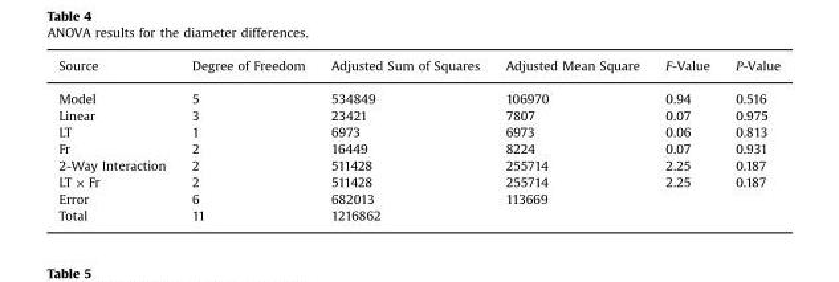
<table><thead><tr><td>Source</td><td>Degree of Freedom</td><td>Adjusted Sum of Squares</td><td>Adjusted Mean Square</td><td>F-Value</td><td>P-Value</td></tr></thead><tbody><tr><td>Model</td><td>5</td><td>534849</td><td>106970</td><td>0.94</td><td>0.516</td></tr><tr><td>Linear</td><td>3</td><td>23421</td><td>7807</td><td>0.07</td><td>0.975</td></tr><tr><td>LT</td><td>1</td><td>6973</td><td>6973</td><td>0.06</td><td>0.813</td></tr><tr><td>Fr</td><td>2</td><td>16449</td><td>8224</td><td>0.07</td><td>0.931</td></tr><tr><td>2-Way Interaction</td><td>2</td><td>511428</td><td>255714</td><td>2.25</td><td>0.187</td></tr><tr><td>LT × Fr</td><td>2</td><td>511428</td><td>255714</td><td>2.25</td><td>0.187</td></tr><tr><td>Error</td><td>6</td><td>682013</td><td>113669</td><td></td><td></td></tr><tr><td>Total</td><td>11</td><td>1216862</td><td></td><td></td><td></td></tr></tbody></table>